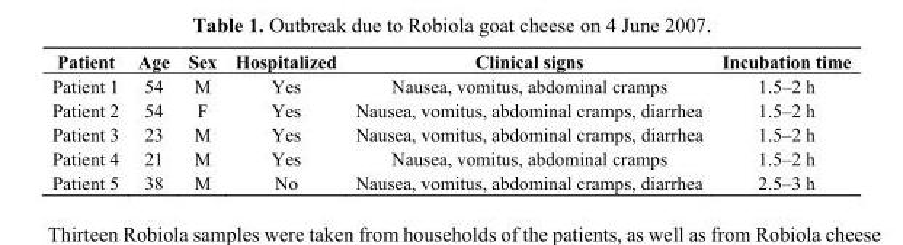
<table><thead><tr><td>Patient</td><td>Age</td><td>Sex</td><td>Hospitalized</td><td>Clinical signs</td><td>Incubation time</td></tr></thead><tbody><tr><td>Patient 1</td><td>54</td><td>M</td><td>Yes</td><td>Nausea, vomitus, abdominal cramps</td><td>1.5–2 h</td></tr><tr><td>Patient 2</td><td>54</td><td>F</td><td>Yes</td><td>Nausea, vomitus, abdominal cramps, diarrhea</td><td>1.5–2 h</td></tr><tr><td>Patient 3</td><td>23</td><td>M</td><td>Yes</td><td>Nausea, vomitus, abdominal cramps, diarrhea</td><td>1.5–2 h</td></tr><tr><td>Patient 4</td><td>21</td><td>M</td><td>Yes</td><td>Nausea, vomitus, abdominal cramps</td><td>1.5–2 h</td></tr><tr><td>Patient 5</td><td>38</td><td>M</td><td>No</td><td>Nausea, vomitus, abdominal cramps, diarrhea</td><td>2.5–3 h</td></tr></tbody></table>